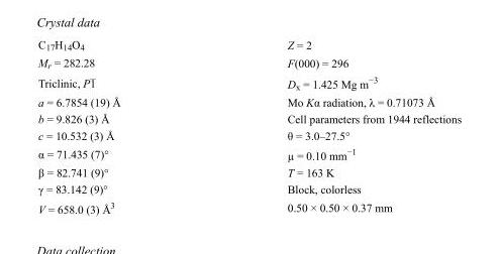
<table><tbody><tr><td>C<sub>17</sub>H<sub>14</sub>O<sub>4</sub></td><td>Z = 2</td></tr><tr><td>M<sub>r</sub> = 282.28</td><td>F(000) = 296</td></tr><tr><td>Triclinic, P1</td><td>D<sub>x</sub> = 1.425 Mg m<sup>−3</sup></td></tr><tr><td>a = 6.7854 (19) Å</td><td>Mo Kα radiation, λ = 0.71073 Å</td></tr><tr><td>b = 9.826 (3) Å</td><td>Cell parameters from 1944 reflections</td></tr><tr><td>c = 10.532 (3) Å</td><td>θ = 3.0–27.5°</td></tr><tr><td>α = 71.435 (7)°</td><td>µ = 0.10 mm<sup>−1</sup></td></tr><tr><td>β = 82.741 (9)°</td><td>T = 163 K</td></tr><tr><td>γ = 83.142 (9)°</td><td>Block, colorless</td></tr><tr><td>V = 658.0 (3) Å<sup>3</sup></td><td>0.50 × 0.50 × 0.37 mm</td></tr></tbody></table>